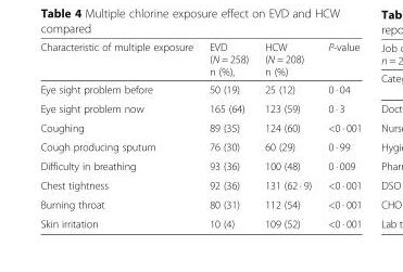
<table><thead><tr><td>Characteristic of multiple exposure</td><td>EVD (N = 258) n (%),</td><td>HCW (N = 208) n (%)</td><td>P-value</td></tr></thead><tbody><tr><td>Eye sight problem before</td><td>50 (19)</td><td>25 (12)</td><td>0 · 04</td></tr><tr><td>Eye sight problem now</td><td>165 (64)</td><td>123 (59)</td><td>0 · 3</td></tr><tr><td>Coughing</td><td>89 (35)</td><td>124 (60)</td><td>&lt;0 · 001</td></tr><tr><td>Cough producing sputum</td><td>76 (30)</td><td>60 (29)</td><td>0 · 99</td></tr><tr><td>Difficulty in breathing</td><td>93 (36)</td><td>100 (48)</td><td>0 · 009</td></tr><tr><td>Chest tightness</td><td>92 (36)</td><td>131 (62 · 9)</td><td>&lt;0 · 001</td></tr><tr><td>Burning throat</td><td>80 (31)</td><td>112 (54)</td><td>&lt;0 · 001</td></tr><tr><td>Skin irritation</td><td>10 (4)</td><td>109 (52)</td><td>&lt;0 · 001</td></tr></tbody></table>